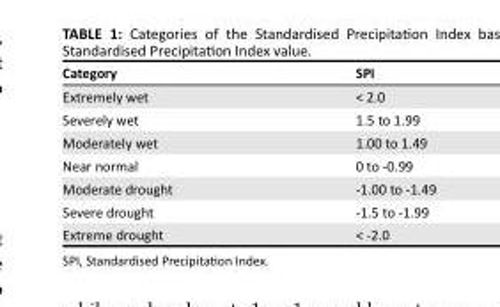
<table><thead><tr><td>Category</td><td>SPI</td></tr></thead><tbody><tr><td>Extremely wet</td><td>&lt; 2.0</td></tr><tr><td>Severely wet</td><td>1.5 to 1.99</td></tr><tr><td>Moderately wet</td><td>1.00 to 1.49</td></tr><tr><td>Near normal</td><td>0 to -0.99</td></tr><tr><td>Moderate drought</td><td>-1.00 to -1.49</td></tr><tr><td>Severe drought</td><td>-1.5 to -1.99</td></tr><tr><td>Extreme drought</td><td>&lt; -2.0</td></tr></tbody></table>